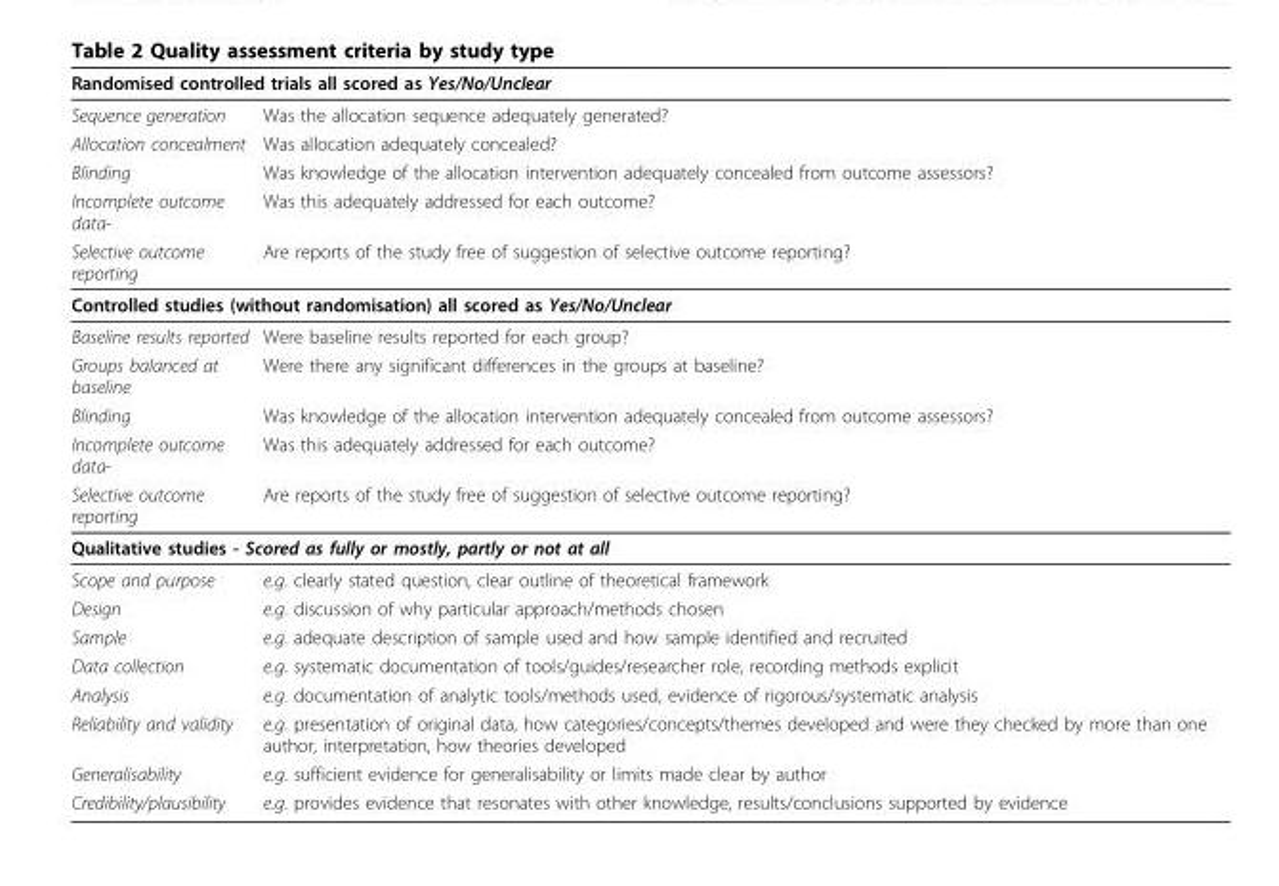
<table><thead><tr><td colspan="2">Randomised controlled trials all scored as Yes/No/Unclear</td></tr><tr><td>Sequence generation</td><td>Was the allocation sequence adequately generated?</td></tr></thead><tbody><tr><td>Allocation concealment</td><td>Was allocation adequately concealed?</td></tr><tr><td>Blinding</td><td>Was knowledge of the allocation intervention adequately concealed from outcome assessors?</td></tr><tr><td>Incomplete outcome data-</td><td>Was this adequately addressed for each outcome?</td></tr><tr><td>Selective outcome reporting</td><td>Are reports of the study free of suggestion of selective outcome reporting?</td></tr><tr><td colspan="2">Controlled studies (without randomisation) all scored as Yes/No/Unclear</td></tr><tr><td>Baseline results reported</td><td>Were baseline results reported for each group?</td></tr><tr><td>Groups balanced at baseline</td><td>Were there any significant differences in the groups at baseline?</td></tr><tr><td>Blinding</td><td>Was knowledge of the allocation intervention adequately concealed from outcome assessors?</td></tr><tr><td>Incomplete outcome data-</td><td>Was this adequately addressed for each outcome?</td></tr><tr><td>Selective outcome reporting</td><td>Are reports of the study free of suggestion of selective outcome reporting?</td></tr><tr><td colspan="2">Qualitative studies - Scored as fully or mostly, partly or not at all</td></tr><tr><td>Scope and purpose</td><td>e.g. clearly stated question, clear outline of theoretical framework</td></tr><tr><td>Design</td><td>e.g. discussion of why particular approach/methods chosen</td></tr><tr><td>Sample</td><td>e.g. adequate description of sample used and how sample identified and recruited</td></tr><tr><td>Data collection</td><td>e.g. systematic documentation of tools/guides/researcher role, recording methods explicit</td></tr><tr><td>Analysis</td><td>e.g. documentation of analytic tools/methods used, evidence of rigorous/systematic analysis</td></tr><tr><td>Reliability and validity</td><td>e.g. presentation of original data, how categories/concepts/themes developed and were they checked by more than one author, interpretation, how theories developed</td></tr><tr><td>Generalisability</td><td>e.g. sufficient evidence for generalisability or limits made clear by author</td></tr><tr><td>Credibility/plausibility</td><td>e.g. provides evidence that resonates with other knowledge, results/conclusions supported by evidence</td></tr></tbody></table>